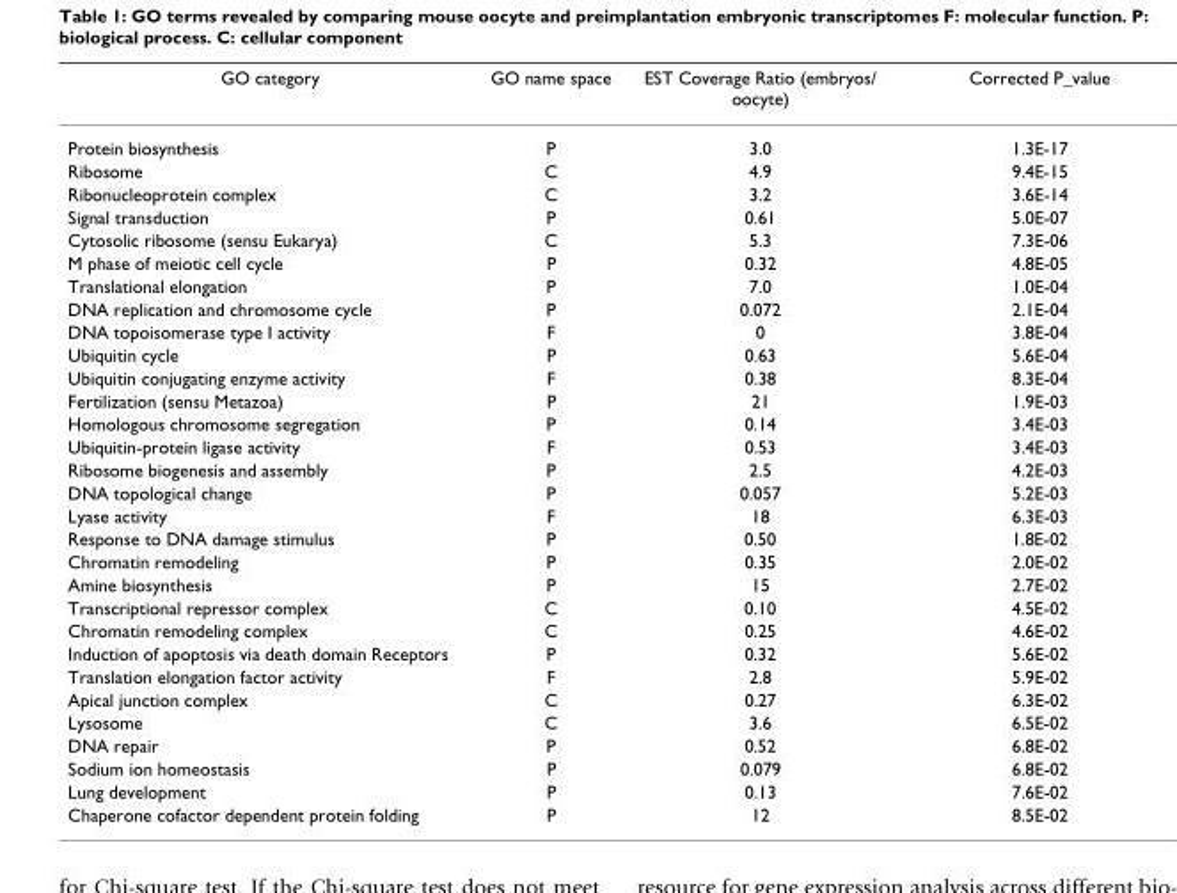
<table><thead><tr><td>GO category</td><td>GO name space</td><td>EST Coverage Ratio (embryos/ oocyte)</td><td>Corrected P_value</td></tr></thead><tbody><tr><td>Protein biosynthesis</td><td>P</td><td>3.0</td><td>1.3E-17</td></tr><tr><td>Ribosome</td><td>C</td><td>4.9</td><td>9.4E-15</td></tr><tr><td>Ribonucleoprotein complex</td><td>C</td><td>3.2</td><td>3.6E-14</td></tr><tr><td>Signal transduction</td><td>P</td><td>0.61</td><td>5.0E-07</td></tr><tr><td>Cytosolic ribosome (sensu Eukarya)</td><td>C</td><td>5.3</td><td>7.3E-06</td></tr><tr><td>M phase of meiotic cell cycle</td><td>P</td><td>0.32</td><td>4.8E-05</td></tr><tr><td>Translational elongation</td><td>P</td><td>7.0</td><td>1.0E-04</td></tr><tr><td>DNA replication and chromosome cycle</td><td>P</td><td>0.072</td><td>2.1E-04</td></tr><tr><td>DNA topoisomerase type I activity</td><td>F</td><td>0</td><td>3.8E-04</td></tr><tr><td>Ubiquitin cycle</td><td>P</td><td>0.63</td><td>5.6E-04</td></tr><tr><td>Ubiquitin conjugating enzyme activity</td><td>F</td><td>0.38</td><td>8.3E-04</td></tr><tr><td>Fertilization (sensu Metazoa)</td><td>P</td><td>21</td><td>1.9E-03</td></tr><tr><td>Homologous chromosome segregation</td><td>P</td><td>0.14</td><td>3.4E-03</td></tr><tr><td>Ubiquitin-protein ligase activity</td><td>F</td><td>0.53</td><td>3.4E-03</td></tr><tr><td>Ribosome biogenesis and assembly</td><td>P</td><td>2.5</td><td>4.2E-03</td></tr><tr><td>DNA topological change</td><td>P</td><td>0.057</td><td>5.2E-03</td></tr><tr><td>Lyase activity</td><td>F</td><td>18</td><td>6.3E-03</td></tr><tr><td>Response to DNA damage stimulus</td><td>P</td><td>0.50</td><td>1.8E-02</td></tr><tr><td>Chromatin remodeling</td><td>P</td><td>0.35</td><td>2.0E-02</td></tr><tr><td>Amine biosynthesis</td><td>P</td><td>15</td><td>2.7E-02</td></tr><tr><td>Transcriptional repressor complex</td><td>C</td><td>0.10</td><td>4.5E-02</td></tr><tr><td>Chromatin remodeling complex</td><td>C</td><td>0.25</td><td>4.6E-02</td></tr><tr><td>Induction of apoptosis via death domain Receptors</td><td>P</td><td>0.32</td><td>5.6E-02</td></tr><tr><td>Translation elongation factor activity</td><td>F</td><td>2.8</td><td>5.9E-02</td></tr><tr><td>Apical junction complex</td><td>C</td><td>0.27</td><td>6.3E-02</td></tr><tr><td>Lysosome</td><td>C</td><td>3.6</td><td>6.5E-02</td></tr><tr><td>DNA repair</td><td>P</td><td>0.52</td><td>6.8E-02</td></tr><tr><td>Sodium ion homeostasis</td><td>P</td><td>0.079</td><td>6.8E-02</td></tr><tr><td>Lung development</td><td>P</td><td>0.13</td><td>7.6E-02</td></tr><tr><td>Chaperone cofactor dependent protein folding</td><td>P</td><td>12</td><td>8.5E-02</td></tr></tbody></table>